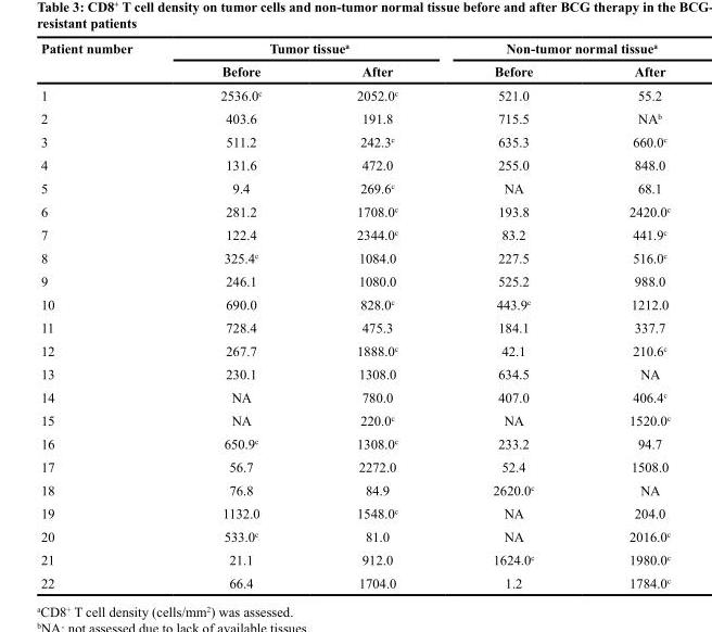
<table><thead><tr><td rowspan="2">Patient number</td><td colspan="2">Tumor tissue<sup>a</sup></td><td colspan="2">Non-tumor normal tissue<sup>a</sup></td></tr><tr><td>Before</td><td>After</td><td>Before</td><td>After</td></tr></thead><tbody><tr><td>1</td><td>2536.0<sup>c</sup></td><td>2052.0<sup>c</sup></td><td>521.0</td><td>55.2</td></tr><tr><td>2</td><td>403.6</td><td>191.8</td><td>715.5</td><td>NA<sup>b</sup></td></tr><tr><td>3</td><td>511.2</td><td>242.3<sup>c</sup></td><td>635.3</td><td>660.0<sup>c</sup></td></tr><tr><td>4</td><td>131.6</td><td>472.0</td><td>255.0</td><td>848.0</td></tr><tr><td>5</td><td>9.4</td><td>269.6<sup>c</sup></td><td>NA</td><td>68.1</td></tr><tr><td>6</td><td>281.2</td><td>1708.0<sup>c</sup></td><td>193.8</td><td>2420.0<sup>c</sup></td></tr><tr><td>7</td><td>122.4</td><td>2344.0<sup>c</sup></td><td>83.2</td><td>441.9<sup>c</sup></td></tr><tr><td>8</td><td>325.4<sup>c</sup></td><td>1084.0</td><td>227.5</td><td>516.0<sup>c</sup></td></tr><tr><td>9</td><td>246.1</td><td>1080.0</td><td>525.2</td><td>988.0</td></tr><tr><td>10</td><td>690.0</td><td>828.0<sup>c</sup></td><td>443.9<sup>c</sup></td><td>1212.0</td></tr><tr><td>11</td><td>728.4</td><td>475.3</td><td>184.1</td><td>337.7</td></tr><tr><td>12</td><td>267.7</td><td>1888.0<sup>c</sup></td><td>42.1</td><td>210.6<sup>c</sup></td></tr><tr><td>13</td><td>230.1</td><td>1308.0</td><td>634.5</td><td>NA</td></tr><tr><td>14</td><td>NA</td><td>780.0</td><td>407.0</td><td>406.4<sup>c</sup></td></tr><tr><td>15</td><td>NA</td><td>220.0<sup>c</sup></td><td>NA</td><td>1520.0<sup>c</sup></td></tr><tr><td>16</td><td>650.9<sup>c</sup></td><td>1308.0<sup>c</sup></td><td>233.2</td><td>94.7</td></tr><tr><td>17</td><td>56.7</td><td>2272.0</td><td>52.4</td><td>1508.0</td></tr><tr><td>18</td><td>76.8</td><td>84.9</td><td>2620.0<sup>c</sup></td><td>NA</td></tr><tr><td>19</td><td>1132.0</td><td>1548.0<sup>c</sup></td><td>NA</td><td>204.0</td></tr><tr><td>20</td><td>533.0<sup>c</sup></td><td>81.0</td><td>NA</td><td>2016.0<sup>c</sup></td></tr><tr><td>21</td><td>21.1</td><td>912.0</td><td>1624.0<sup>c</sup></td><td>1980.0<sup>c</sup></td></tr><tr><td>22</td><td>66.4</td><td>1704.0</td><td>1.2</td><td>1784.0<sup>c</sup></td></tr></tbody></table>